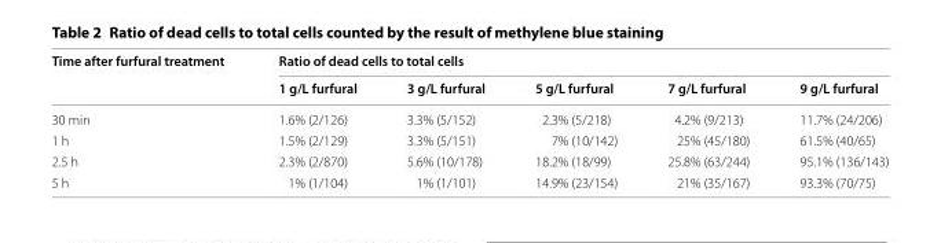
<table><thead><tr><td rowspan="2">Time after furfural treatment</td><td colspan="5">Ratio of dead cells to total cells</td></tr><tr><td>1 g/L furfural</td><td>3 g/L furfural</td><td>5 g/L furfural</td><td>7 g/L furfural</td><td>9 g/L furfural</td></tr></thead><tbody><tr><td>30 min</td><td>1.6% (2/126)</td><td>3.3% (5/152)</td><td>2.3% (5/218)</td><td>4.2% (9/213)</td><td>11.7% (24/206)</td></tr><tr><td>1 h</td><td>1.5% (2/129)</td><td>3.3% (5/151)</td><td>7% (10/142)</td><td>25% (45/180)</td><td>61.5% (40/65)</td></tr><tr><td>2.5 h</td><td>2.3% (2/870)</td><td>5.6% (10/178)</td><td>18.2% (18/99)</td><td>25.8% (63/244)</td><td>95.1% (136/143)</td></tr><tr><td>5 h</td><td>1% (1/104)</td><td>1% (1/101)</td><td>14.9% (23/154)</td><td>21% (35/167)</td><td>93.3% (70/75)</td></tr></tbody></table>